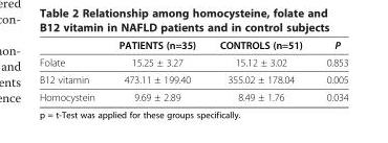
<table><thead><tr><td></td><td>PATIENTS (n=35)</td><td>CONTROLS (n=51)</td><td>P</td></tr></thead><tbody><tr><td>Folate</td><td>15.25 ± 3.27</td><td>15.12 ± 3.02</td><td>0.853</td></tr><tr><td>B12 vitamin</td><td>473.11 ± 199.40</td><td>355.02 ± 178.04</td><td>0.005</td></tr><tr><td>Homocystein</td><td>9.69 ± 2.89</td><td>8.49 ± 1.76</td><td>0.034</td></tr></tbody></table>